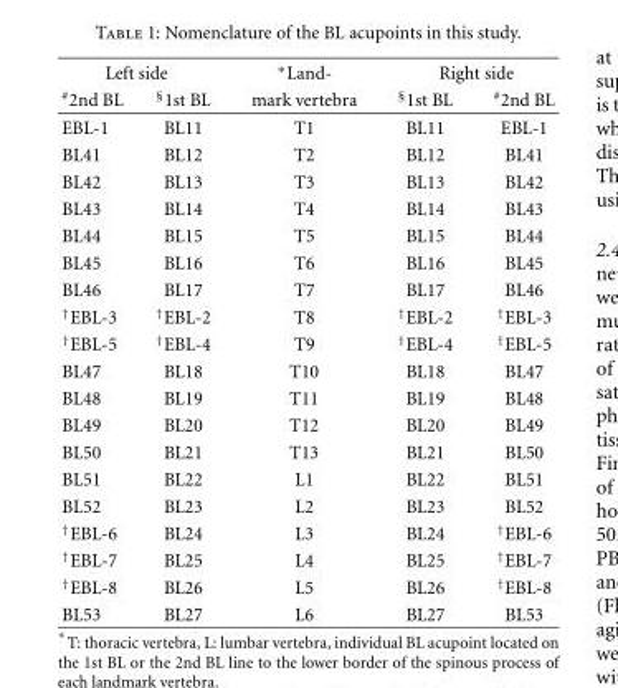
<table><thead><tr><td colspan="2">Left side</td><td rowspan="2">∗Land- mark vertebra</td><td colspan="2">Right side</td></tr><tr><td><sup>#</sup>2nd BL</td><td><sup>§</sup>1st BL</td><td><sup>§</sup>1st BL</td><td><sup>#</sup>2nd BL</td></tr></thead><tbody><tr><td>EBL-1</td><td>BL11</td><td>T1</td><td>BL11</td><td>EBL-1</td></tr><tr><td>BL41</td><td>BL12</td><td>T2</td><td>BL12</td><td>BL41</td></tr><tr><td>BL42</td><td>BL13</td><td>T3</td><td>BL13</td><td>BL42</td></tr><tr><td>BL43</td><td>BL14</td><td>T4</td><td>BL14</td><td>BL43</td></tr><tr><td>BL44</td><td>BL15</td><td>T5</td><td>BL15</td><td>BL44</td></tr><tr><td>BL45</td><td>BL16</td><td>T6</td><td>BL16</td><td>BL45</td></tr><tr><td>BL46</td><td>BL17</td><td>T7</td><td>BL17</td><td>BL46</td></tr><tr><td><sup>†</sup>EBL-3</td><td><sup>†</sup>EBL-2</td><td>T8</td><td><sup>†</sup>EBL-2</td><td><sup>†</sup>EBL-3</td></tr><tr><td><sup>†</sup>EBL-5</td><td><sup>†</sup>EBL-4</td><td>T9</td><td><sup>†</sup>EBL-4</td><td><sup>†</sup>EBL-5</td></tr><tr><td>BL47</td><td>BL18</td><td>T10</td><td>BL18</td><td>BL47</td></tr><tr><td>BL48</td><td>BL19</td><td>T11</td><td>BL19</td><td>BL48</td></tr><tr><td>BL49</td><td>BL20</td><td>T12</td><td>BL20</td><td>BL49</td></tr><tr><td>BL50</td><td>BL21</td><td>T13</td><td>BL21</td><td>BL50</td></tr><tr><td>BL51</td><td>BL22</td><td>L1</td><td>BL22</td><td>BL51</td></tr><tr><td>BL52</td><td>BL23</td><td>L2</td><td>BL23</td><td>BL52</td></tr><tr><td><sup>†</sup>EBL-6</td><td>BL24</td><td>L3</td><td>BL24</td><td><sup>†</sup>EBL-6</td></tr><tr><td><sup>†</sup>EBL-7</td><td>BL25</td><td>L4</td><td>BL25</td><td><sup>†</sup>EBL-7</td></tr><tr><td><sup>†</sup>EBL-8</td><td>BL26</td><td>L5</td><td>BL26</td><td><sup>†</sup>EBL-8</td></tr><tr><td>BL53</td><td>BL27</td><td>L6</td><td>BL27</td><td>BL53</td></tr></tbody></table>